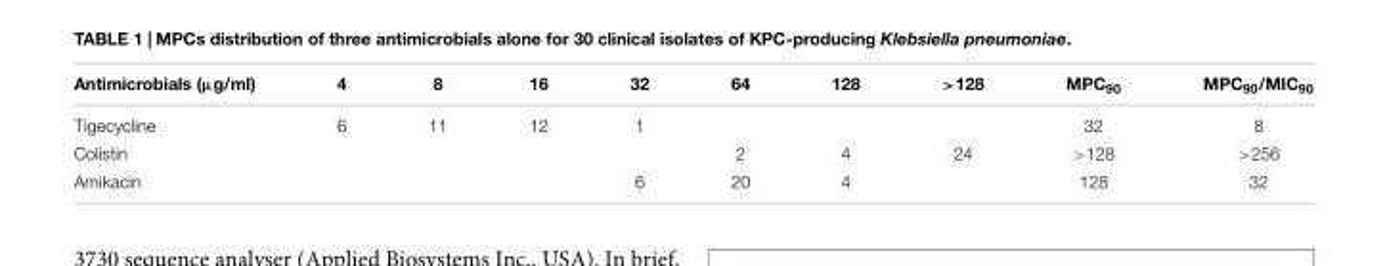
<table><thead><tr><td>Antimicrobials (µg/ml)</td><td>4</td><td>8</td><td>16</td><td>32</td><td>64</td><td>128</td><td>&gt;128</td><td>MPC<sub>90</sub></td><td>MPC<sub>90</sub>/MIC<sub>90</sub></td></tr></thead><tbody><tr><td>Tigecycline</td><td>6</td><td>11</td><td>12</td><td>1</td><td></td><td></td><td></td><td>32</td><td>8</td></tr><tr><td>Colistin</td><td></td><td></td><td></td><td></td><td>2</td><td>4</td><td>24</td><td>&gt;128</td><td>&gt;256</td></tr><tr><td>Amikacin</td><td></td><td></td><td></td><td>6</td><td>20</td><td>4</td><td></td><td>128</td><td>32</td></tr></tbody></table>